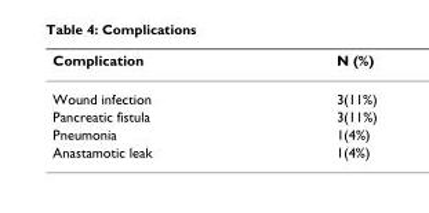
<table><thead><tr><td>Complication</td><td>N (%)</td></tr></thead><tbody><tr><td>Wound infection</td><td>3(11%)</td></tr><tr><td>Pancreatic fistula</td><td>3(11%)</td></tr><tr><td>Pneumonia</td><td>1(4%)</td></tr><tr><td>Anastamotic leak</td><td>1(4%)</td></tr></tbody></table>